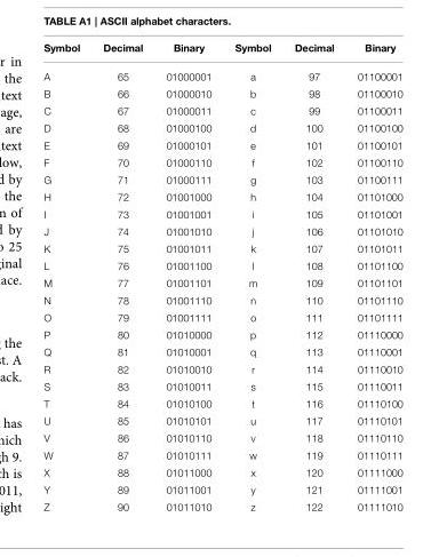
<table><thead><tr><td>Symbol</td><td>Decimal</td><td>Binary</td><td>Symbol</td><td>Decimal</td><td>Binary</td></tr></thead><tbody><tr><td>A</td><td>65</td><td>01000001</td><td>a</td><td>97</td><td>01100001</td></tr><tr><td>B</td><td>66</td><td>01000010</td><td>b</td><td>98</td><td>01100010</td></tr><tr><td>C</td><td>67</td><td>01000011</td><td>c</td><td>99</td><td>01100011</td></tr><tr><td>D</td><td>68</td><td>01000100</td><td>d</td><td>100</td><td>01100100</td></tr><tr><td>E</td><td>69</td><td>01000101</td><td>e</td><td>101</td><td>01100101</td></tr><tr><td>F</td><td>70</td><td>01000110</td><td>f</td><td>102</td><td>01100110</td></tr><tr><td>G</td><td>71</td><td>01000111</td><td>g</td><td>103</td><td>01100111</td></tr><tr><td>H</td><td>72</td><td>01001000</td><td>h</td><td>104</td><td>01101000</td></tr><tr><td>I</td><td>73</td><td>01001001</td><td>i</td><td>105</td><td>01101001</td></tr><tr><td>J</td><td>74</td><td>01001010</td><td>j</td><td>106</td><td>01101010</td></tr><tr><td>K</td><td>75</td><td>01001011</td><td>k</td><td>107</td><td>01101011</td></tr><tr><td>L</td><td>76</td><td>01001100</td><td>l</td><td>108</td><td>01101100</td></tr><tr><td>M</td><td>77</td><td>01001101</td><td>m</td><td>109</td><td>01101101</td></tr><tr><td>N</td><td>78</td><td>01001110</td><td>n</td><td>110</td><td>01101110</td></tr><tr><td>O</td><td>79</td><td>01001111</td><td>o</td><td>111</td><td>01101111</td></tr><tr><td>P</td><td>80</td><td>01010000</td><td>p</td><td>112</td><td>01110000</td></tr><tr><td>Q</td><td>81</td><td>01010001</td><td>q</td><td>113</td><td>01110001</td></tr><tr><td>R</td><td>82</td><td>01010010</td><td>r</td><td>114</td><td>01110010</td></tr><tr><td>S</td><td>83</td><td>01010011</td><td>s</td><td>115</td><td>01110011</td></tr><tr><td>T</td><td>84</td><td>01010100</td><td>t</td><td>116</td><td>01110100</td></tr><tr><td>U</td><td>85</td><td>01010101</td><td>u</td><td>117</td><td>01110101</td></tr><tr><td>V</td><td>86</td><td>01010110</td><td>v</td><td>118</td><td>01110110</td></tr><tr><td>W</td><td>87</td><td>01010111</td><td>w</td><td>119</td><td>01110111</td></tr><tr><td>X</td><td>88</td><td>01011000</td><td>x</td><td>120</td><td>01111000</td></tr><tr><td>Y</td><td>89</td><td>01011001</td><td>y</td><td>121</td><td>01111001</td></tr><tr><td>Z</td><td>90</td><td>01011010</td><td>z</td><td>122</td><td>01111010</td></tr></tbody></table>